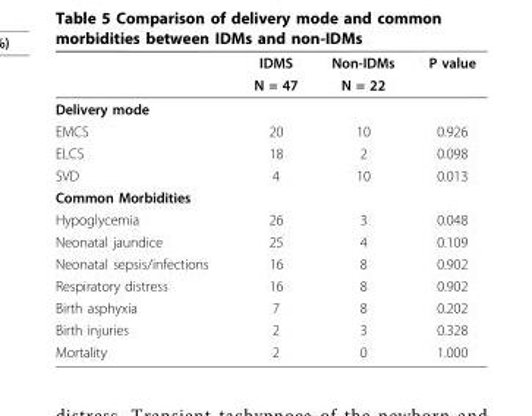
<table><thead><tr><td rowspan="2"></td><td rowspan="2">IDMS N = 47</td><td rowspan="2">Non-IDMs N = 22</td><td rowspan="2">P value</td></tr><tr></tr></thead><tbody><tr><td colspan="4">Delivery mode</td></tr><tr><td>EMCS</td><td>20</td><td>10</td><td>0.926</td></tr><tr><td>ELCS</td><td>18</td><td>2</td><td>0.098</td></tr><tr><td>SVD</td><td>4</td><td>10</td><td>0.013</td></tr><tr><td colspan="4">Common Morbidities</td></tr><tr><td>Hypoglycemia</td><td>26</td><td>3</td><td>0.048</td></tr><tr><td>Neonatal jaundice</td><td>25</td><td>4</td><td>0.109</td></tr><tr><td>Neonatal sepsis/infections</td><td>16</td><td>8</td><td>0.902</td></tr><tr><td>Respiratory distress</td><td>16</td><td>8</td><td>0.902</td></tr><tr><td>Birth asphyxia</td><td>7</td><td>8</td><td>0.202</td></tr><tr><td>Birth injuries</td><td>2</td><td>3</td><td>0.328</td></tr><tr><td>Mortality</td><td>2</td><td>0</td><td>1.000</td></tr></tbody></table>